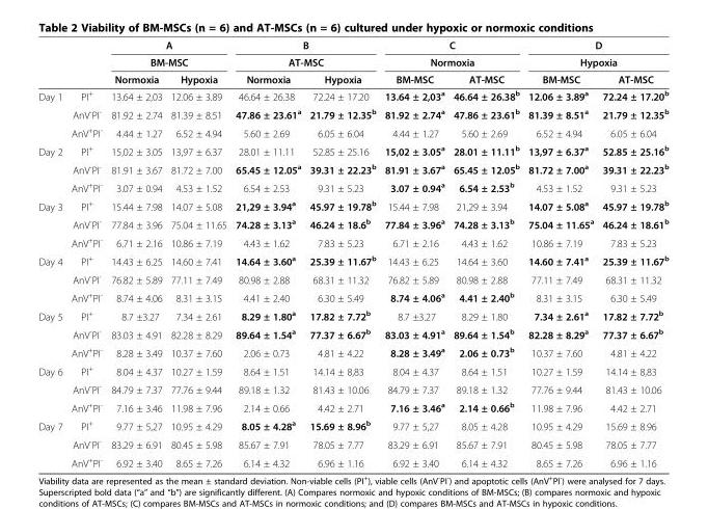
<table><thead><tr><td rowspan="3"></td><td rowspan="3"></td><td rowspan="2" colspan="2">A BM-MSC</td><td rowspan="2" colspan="2">B AT-MSC</td><td rowspan="2" colspan="2">C Normoxia</td><td rowspan="2" colspan="2">D Hypoxia</td></tr><tr></tr><tr><td>Normoxia</td><td>Hypoxia</td><td>Normoxia</td><td>Hypoxia</td><td>BM-MSC</td><td>AT-MSC</td><td>BM-MSC</td><td>AT-MSC</td></tr></thead><tbody><tr><td rowspan="3">Day 1</td><td>PI<sup>+</sup></td><td>13.64 ± 2,03</td><td>12.06 ± 3.89</td><td>46.64 ± 26.38</td><td>72.24 ± 17.20</td><td>13.64 ± 2,03<sup>a</sup></td><td>46.64 ± 26.38<sup>b</sup></td><td>12.06 ± 3.89<sup>a</sup></td><td>72.24 ± 17.20<sup>b</sup></td></tr><tr><td>AnV<sup>-</sup>PI<sup>-</sup></td><td>81.92 ± 2.74</td><td>81.39 ± 8.51</td><td>47.86 ± 23.61<sup>a</sup></td><td>21.79 ± 12.35<sup>b</sup></td><td>81.92 ± 2.74<sup>a</sup></td><td>47.86 ± 23.61<sup>b</sup></td><td>81.39 ± 8.51<sup>a</sup></td><td>21.79 ± 12.35<sup>b</sup></td></tr><tr><td>AnV<sup>+</sup>PI<sup>-</sup></td><td>4.44 ± 1.27</td><td>6.52 ± 4.94</td><td>5.60 ± 2.69</td><td>6.05 ± 6.04</td><td>4.44 ± 1.27</td><td>5.60 ± 2.69</td><td>6.52 ± 4.94</td><td>6.05 ± 6.04</td></tr><tr><td rowspan="3">Day 2</td><td>PI<sup>+</sup></td><td>15,02 ± 3.05</td><td>13,97 ± 6.37</td><td>28.01 ± 11.11</td><td>52.85 ± 25.16</td><td>15,02 ± 3.05<sup>a</sup></td><td>28.01 ± 11.11<sup>b</sup></td><td>13,97 ± 6.37<sup>a</sup></td><td>52.85 ± 25.16<sup>b</sup></td></tr><tr><td>AnV<sup>-</sup>PI<sup>-</sup></td><td>81.91 ± 3.67</td><td>81.72 ± 7.00</td><td>65.45 ± 12.05<sup>a</sup></td><td>39.31 ± 22.23<sup>b</sup></td><td>81.91 ± 3.67<sup>a</sup></td><td>65.45 ± 12.05<sup>b</sup></td><td>81.72 ± 7.00<sup>a</sup></td><td>39.31 ± 22.23<sup>b</sup></td></tr><tr><td>AnV<sup>+</sup>PI<sup>-</sup></td><td>3.07 ± 0.94</td><td>4.53 ± 1.52</td><td>6.54 ± 2.53</td><td>9.31 ± 5.23</td><td>3.07 ± 0.94<sup>a</sup></td><td>6.54 ± 2.53<sup>b</sup></td><td>4.53 ± 1.52</td><td>9.31 ± 5.23</td></tr><tr><td rowspan="3">Day 3</td><td>PI<sup>+</sup></td><td>15.44 ± 7.98</td><td>14.07 ± 5.08</td><td>21,29 ± 3.94<sup>a</sup></td><td>45.97 ± 19.78<sup>b</sup></td><td>15.44 ± 7.98</td><td>21,29 ± 3.94</td><td>14.07 ± 5.08<sup>a</sup></td><td>45.97 ± 19.78<sup>b</sup></td></tr><tr><td>AnV<sup>-</sup>PI<sup>-</sup></td><td>77.84 ± 3.96</td><td>75.04 ± 11.65</td><td>74.28 ± 3.13<sup>a</sup></td><td>46.24 ± 18.6<sup>b</sup></td><td>77.84 ± 3.96<sup>a</sup></td><td>74.28 ± 3.13<sup>b</sup></td><td>75.04 ± 11.65<sup>a</sup></td><td>46.24 ± 18.61<sup>b</sup></td></tr><tr><td>AnV<sup>+</sup>PI<sup>-</sup></td><td>6.71 ± 2.16</td><td>10.86 ± 7.19</td><td>4.43 ± 1.62</td><td>7.83 ± 5.23</td><td>6.71 ± 2.16</td><td>4.43 ± 1.62</td><td>10.86 ± 7.19</td><td>7.83 ± 5.23</td></tr><tr><td rowspan="3">Day 4</td><td>PI<sup>+</sup></td><td>14.43 ± 6.25</td><td>14.60 ± 7.41</td><td>14.64 ± 3.60<sup>a</sup></td><td>25.39 ± 11.67<sup>b</sup></td><td>14.43 ± 6.25</td><td>14.64 ± 3.60</td><td>14.60 ± 7.41<sup>a</sup></td><td>25.39 ± 11.67<sup>b</sup></td></tr><tr><td>AnV<sup>-</sup>PI<sup>-</sup></td><td>76.82 ± 5.89</td><td>77.11 ± 7.49</td><td>80.98 ± 2.88</td><td>68.31 ± 11.32</td><td>76.82 ± 5.89</td><td>80.98 ± 2.88</td><td>77.11 ± 7.49</td><td>68.31 ± 11.32</td></tr><tr><td>AnV<sup>+</sup>PI<sup>-</sup></td><td>8.74 ± 4.06</td><td>8.31 ± 3.15</td><td>4.41 ± 2.40</td><td>6.30 ± 5.49</td><td>8.74 ± 4.06<sup>a</sup></td><td>4.41 ± 2.40<sup>b</sup></td><td>8.31 ± 3.15</td><td>6.30 ± 5.49</td></tr><tr><td rowspan="3">Day 5</td><td>PI<sup>+</sup></td><td>8.7 ±3.27</td><td>7.34 ± 2.61</td><td>8.29 ± 1.80<sup>a</sup></td><td>17.82 ± 7.72<sup>b</sup></td><td>8.7 ±3.27</td><td>8.29 ± 1.80</td><td>7.34 ± 2.61<sup>a</sup></td><td>17.82 ± 7.72<sup>b</sup></td></tr><tr><td>AnV<sup>-</sup>PI<sup>-</sup></td><td>83.03 ± 4.91</td><td>82.28 ± 8.29</td><td>89.64 ± 1.54<sup>a</sup></td><td>77.37 ± 6.67<sup>b</sup></td><td>83.03 ± 4.91<sup>a</sup></td><td>89.64 ± 1.54<sup>b</sup></td><td>82.28 ± 8.29<sup>a</sup></td><td>77.37 ± 6.67<sup>b</sup></td></tr><tr><td>AnV<sup>+</sup>PI<sup>-</sup></td><td>8.28 ± 3.49</td><td>10.37 ± 7.60</td><td>2.06 ± 0.73</td><td>4.81 ± 4.22</td><td>8.28 ± 3.49<sup>a</sup></td><td>2.06 ± 0.73<sup>b</sup></td><td>10.37 ± 7.60</td><td>4.81 ± 4.22</td></tr><tr><td rowspan="3">Day 6</td><td>PI<sup>+</sup></td><td>8.04 ± 4.37</td><td>10.27 ± 1.59</td><td>8.64 ± 1.51</td><td>14.14 ± 8,83</td><td>8.04 ± 4.37</td><td>8.64 ± 1.51</td><td>10.27 ± 1.59</td><td>14.14 ± 8,83</td></tr><tr><td>AnV<sup>-</sup>PI<sup>-</sup></td><td>84.79 ± 7.37</td><td>77.76 ± 9.44</td><td>89.18 ± 1.32</td><td>81.43 ± 10.06</td><td>84.79 ± 7.37</td><td>89.18 ± 1.32</td><td>77.76 ± 9.44</td><td>81.43 ± 10.06</td></tr><tr><td>AnV<sup>+</sup>PI<sup>-</sup></td><td>7.16 ± 3.46</td><td>11.98 ± 7.96</td><td>2.14 ± 0.66</td><td>4.42 ± 2.71</td><td>7.16 ± 3.46<sup>a</sup></td><td>2.14 ± 0.66<sup>b</sup></td><td>11.98 ± 7.96</td><td>4.42 ± 2.71</td></tr><tr><td rowspan="3">Day 7</td><td>PI<sup>+</sup></td><td>9.77 ± 5,27</td><td>10.95 ± 4.29</td><td>8.05 ± 4.28<sup>a</sup></td><td>15.69 ± 8.96<sup>b</sup></td><td>9.77 ± 5,27</td><td>8.05 ± 4.28</td><td>10.95 ± 4.29</td><td>15.69 ± 8.96</td></tr><tr><td>AnV<sup>-</sup>PI<sup>-</sup></td><td>83.29 ± 6.91</td><td>80.45 ± 5.98</td><td>85.67 ± 7.91</td><td>78.05 ± 7.77</td><td>83.29 ± 6.91</td><td>85.67 ± 7.91</td><td>80.45 ± 5.98</td><td>78.05 ± 7.77</td></tr><tr><td>AnV<sup>+</sup>PI<sup>-</sup></td><td>6.92 ± 3.40</td><td>8.65 ± 7.26</td><td>6.14 ± 4.32</td><td>6.96 ± 1.16</td><td>6.92 ± 3.40</td><td>6.14 ± 4.32</td><td>8.65 ± 7.26</td><td>6.96 ± 1.16</td></tr></tbody></table>